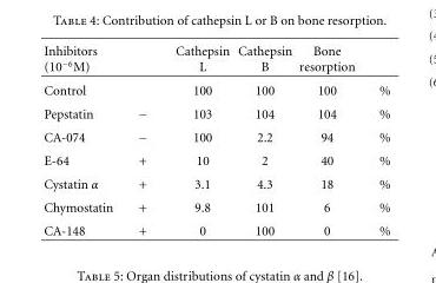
<table><thead><tr><td>Inhibitors (10<sup>−6</sup>M)</td><td></td><td>Cathepsin L</td><td>Cathepsin B</td><td>Bone resorption</td><td></td></tr></thead><tbody><tr><td>Control</td><td></td><td>100</td><td>100</td><td>100</td><td>%</td></tr><tr><td>Pepstatin</td><td>−</td><td>103</td><td>104</td><td>104</td><td>%</td></tr><tr><td>CA-074</td><td>−</td><td>100</td><td>2.2</td><td>94</td><td>%</td></tr><tr><td>E-64</td><td>+</td><td>10</td><td>2</td><td>40</td><td>%</td></tr><tr><td>Cystatin α</td><td>+</td><td>3.1</td><td>4.3</td><td>18</td><td>%</td></tr><tr><td>Chymostatin</td><td>+</td><td>9.8</td><td>101</td><td>6</td><td>%</td></tr><tr><td>CA-148</td><td>+</td><td>0</td><td>100</td><td>0</td><td>%</td></tr></tbody></table>